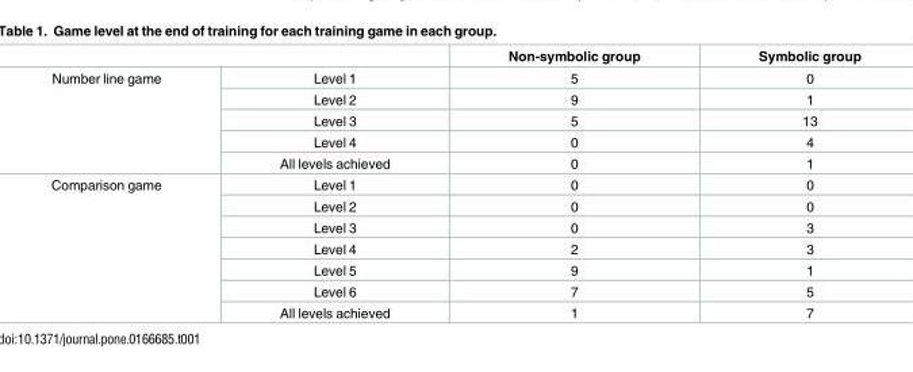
<table><thead><tr><td></td><td></td><td>Non-symbolic group</td><td>Symbolic group</td></tr></thead><tbody><tr><td rowspan="5">Number line game</td><td>Level 1</td><td>5</td><td>0</td></tr><tr><td>Level 2</td><td>9</td><td>1</td></tr><tr><td>Level 3</td><td>5</td><td>13</td></tr><tr><td>Level 4</td><td>0</td><td>4</td></tr><tr><td>All levels achieved</td><td>0</td><td>1</td></tr><tr><td rowspan="7">Comparison game</td><td>Level 1</td><td>0</td><td>0</td></tr><tr><td>Level 2</td><td>0</td><td>0</td></tr><tr><td>Level 3</td><td>0</td><td>3</td></tr><tr><td>Level 4</td><td>2</td><td>3</td></tr><tr><td>Level 5</td><td>9</td><td>1</td></tr><tr><td>Level 6</td><td>7</td><td>5</td></tr><tr><td>All levels achieved</td><td>1</td><td>7</td></tr></tbody></table>